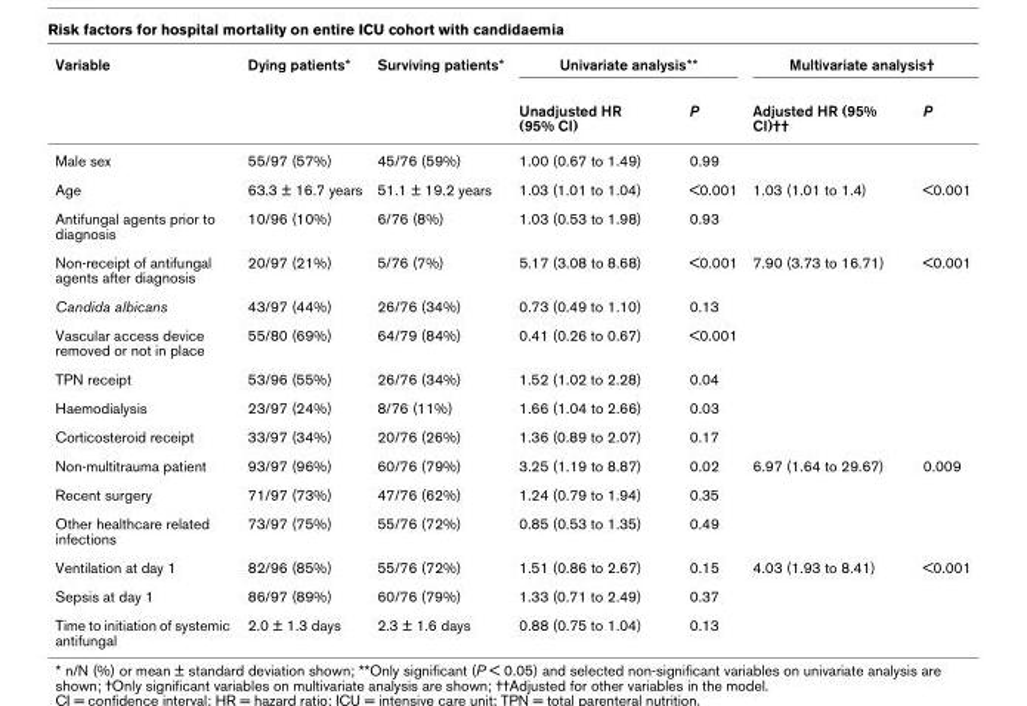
<table><thead><tr><td rowspan="2">Variable</td><td rowspan="2">Dying patients*</td><td rowspan="2">Surviving patients*</td><td colspan="2">Univariate analysis**</td><td colspan="2">Multivariate analysis†</td></tr><tr><td>Unadjusted HR (95% CI)</td><td>P</td><td>Adjusted HR (95% CI)††</td><td>P</td></tr></thead><tbody><tr><td>Male sex</td><td>55/97 (57%)</td><td>45/76 (59%)</td><td>1.00 (0.67 to 1.49)</td><td>0.99</td><td></td><td></td></tr><tr><td>Age</td><td>63.3 ± 16.7 years</td><td>51.1 ± 19.2 years</td><td>1.03 (1.01 to 1.04)</td><td>&lt;0.001</td><td>1.03 (1.01 to 1.4)</td><td>&lt;0.001</td></tr><tr><td>Antifungal agents prior to diagnosis</td><td>10/96 (10%)</td><td>6/76 (8%)</td><td>1.03 (0.53 to 1.98)</td><td>0.93</td><td></td><td></td></tr><tr><td>Non-receipt of antifungal agents after diagnosis</td><td>20/97 (21%)</td><td>5/76 (7%)</td><td>5.17 (3.08 to 8.68)</td><td>&lt;0.001</td><td>7.90 (3.73 to 16.71)</td><td>&lt;0.001</td></tr><tr><td>Candida albicans</td><td>43/97 (44%)</td><td>26/76 (34%)</td><td>0.73 (0.49 to 1.10)</td><td>0.13</td><td></td><td></td></tr><tr><td>Vascular access device removed or not in place</td><td>55/80 (69%)</td><td>64/79 (84%)</td><td>0.41 (0.26 to 0.67)</td><td>&lt;0.001</td><td></td><td></td></tr><tr><td>TPN receipt</td><td>53/96 (55%)</td><td>26/76 (34%)</td><td>1.52 (1.02 to 2.28)</td><td>0.04</td><td></td><td></td></tr><tr><td>Haemodialysis</td><td>23/97 (24%)</td><td>8/76 (11%)</td><td>1.66 (1.04 to 2.66)</td><td>0.03</td><td></td><td></td></tr><tr><td>Corticosteroid receipt</td><td>33/97 (34%)</td><td>20/76 (26%)</td><td>1.36 (0.89 to 2.07)</td><td>0.17</td><td></td><td></td></tr><tr><td>Non-multitrauma patient</td><td>93/97 (96%)</td><td>60/76 (79%)</td><td>3.25 (1.19 to 8.87)</td><td>0.02</td><td>6.97 (1.64 to 29.67)</td><td>0.009</td></tr><tr><td>Recent surgery</td><td>71/97 (73%)</td><td>47/76 (62%)</td><td>1.24 (0.79 to 1.94)</td><td>0.35</td><td></td><td></td></tr><tr><td>Other healthcare related infections</td><td>73/97 (75%)</td><td>55/76 (72%)</td><td>0.85 (0.53 to 1.35)</td><td>0.49</td><td></td><td></td></tr><tr><td>Ventilation at day 1</td><td>82/96 (85%)</td><td>55/76 (72%)</td><td>1.51 (0.86 to 2.67)</td><td>0.15</td><td>4.03 (1.93 to 8.41)</td><td>&lt;0.001</td></tr><tr><td>Sepsis at day 1</td><td>86/97 (89%)</td><td>60/76 (79%)</td><td>1.33 (0.71 to 2.49)</td><td>0.37</td><td></td><td></td></tr><tr><td>Time to initiation of systemic antifungal</td><td>2.0 ± 1.3 days</td><td>2.3 ± 1.6 days</td><td>0.88 (0.75 to 1.04)</td><td>0.13</td><td></td><td></td></tr></tbody></table>